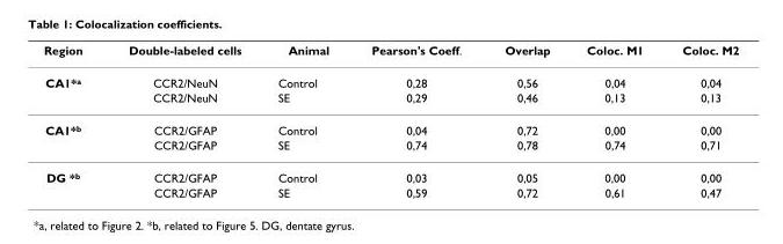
<table><thead><tr><td>Region</td><td>Double-labeled cells</td><td>Animal</td><td>Pearson&#x27;s Coeff.</td><td>Overlap</td><td>Coloc. M1</td><td>Coloc. M2</td></tr></thead><tbody><tr><td rowspan="2">CA1*<sup>a</sup></td><td>CCR2/NeuN</td><td>Control</td><td>0,28</td><td>0,56</td><td>0,04</td><td>0,04</td></tr><tr><td>CCR2/NeuN</td><td>SE</td><td>0,29</td><td>0,46</td><td>0,13</td><td>0,13</td></tr><tr><td rowspan="2">CA1*<sup>b</sup></td><td>CCR2/GFAP</td><td>Control</td><td>0,04</td><td>0,72</td><td>0,00</td><td>0,00</td></tr><tr><td>CCR2/GFAP</td><td>SE</td><td>0,74</td><td>0,78</td><td>0,74</td><td>0,71</td></tr><tr><td rowspan="2">DG *<sup>b</sup></td><td>CCR2/GFAP</td><td>Control</td><td>0,03</td><td>0,05</td><td>0,00</td><td>0,00</td></tr><tr><td>CCR2/GFAP</td><td>SE</td><td>0,59</td><td>0,72</td><td>0,61</td><td>0,47</td></tr></tbody></table>